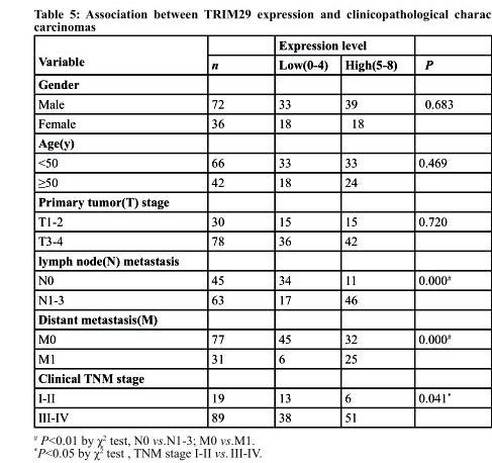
<table><thead><tr><td rowspan="2">Variable</td><td rowspan="2">n</td><td colspan="2">Expression level</td><td rowspan="2">P</td></tr><tr><td>Low(0-4)</td><td>High(5-8)</td></tr></thead><tbody><tr><td colspan="5">Gender</td></tr><tr><td>Male</td><td>72</td><td>33</td><td>39</td><td>0.683</td></tr><tr><td>Female</td><td>36</td><td>18</td><td>18</td><td></td></tr><tr><td colspan="5">Age(y)</td></tr><tr><td>&lt;50</td><td>66</td><td>33</td><td>33</td><td>0.469</td></tr><tr><td>≥50</td><td>42</td><td>18</td><td>24</td><td></td></tr><tr><td colspan="5">Primary tumor(T) stage</td></tr><tr><td>T1-2</td><td>30</td><td>15</td><td>15</td><td>0.720</td></tr><tr><td>T3-4</td><td>78</td><td>36</td><td>42</td><td></td></tr><tr><td colspan="5">lymph node(N) metastasis</td></tr><tr><td>N0</td><td>45</td><td>34</td><td>11</td><td>0.000#</td></tr><tr><td>N1-3</td><td>63</td><td>17</td><td>46</td><td></td></tr><tr><td colspan="5">Distant metastasis(M)</td></tr><tr><td>M0</td><td>77</td><td>45</td><td>32</td><td>0.000#</td></tr><tr><td>M1</td><td>31</td><td>6</td><td>25</td><td></td></tr><tr><td colspan="5">Clinical TNM stage</td></tr><tr><td>I-II</td><td>19</td><td>13</td><td>6</td><td>0.041*</td></tr><tr><td>III-IV</td><td>89</td><td>38</td><td>51</td><td></td></tr></tbody></table>